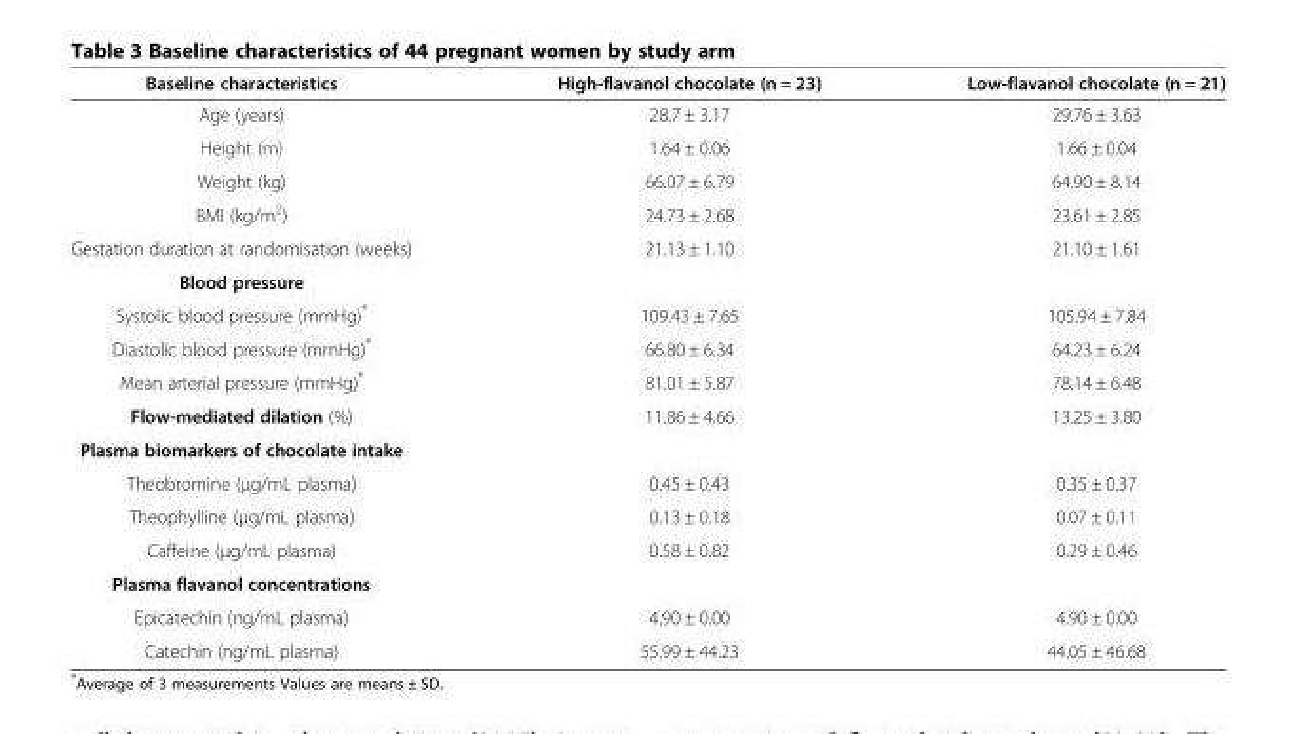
<table><thead><tr><td>Baseline characteristics</td><td>High-flavanol chocolate (n = 23)</td><td>Low-flavanol chocolate (n = 21)</td></tr></thead><tbody><tr><td>Age (years)</td><td>28.7 ± 3.17</td><td>29.76 ± 3.63</td></tr><tr><td>Height (m)</td><td>1.64 ± 0.06</td><td>1.66 ± 0.04</td></tr><tr><td>Weight (kg)</td><td>66.07 ± 6.79</td><td>64.90 ± 8.14</td></tr><tr><td>BMI (kg/m<sup>2</sup>)</td><td>24.73 ± 2.68</td><td>23.61 ± 2.85</td></tr><tr><td>Gestation duration at randomisation (weeks)</td><td>21.13 ± 1.10</td><td>21.10 ± 1.61</td></tr><tr><td colspan="3">Blood pressure</td></tr><tr><td>Systolic blood pressure (mmHg)*</td><td>109.43 ± 7.65</td><td>105.94 ± 7.84</td></tr><tr><td>Diastolic blood pressure (mmHg)*</td><td>66.80 ± 6.34</td><td>64.23 ± 6.24</td></tr><tr><td>Mean arterial pressure (mmHg)*</td><td>81.01 ± 5.87</td><td>78.14 ± 6.48</td></tr><tr><td>Flow-mediated dilation (%)</td><td>11.86 ± 4.66</td><td>13.25 ± 3.80</td></tr><tr><td colspan="3">Plasma biomarkers of chocolate intake</td></tr><tr><td>Theobromine (μg/mL plasma)</td><td>0.45 ± 0.43</td><td>0.35 ± 0.37</td></tr><tr><td>Theophylline (μg/mL plasma)</td><td>0.13 ± 0.18</td><td>0.07 ± 0.11</td></tr><tr><td>Caffeine (μg/mL plasma)</td><td>0.58 ± 0.82</td><td>0.29 ± 0.46</td></tr><tr><td colspan="3">Plasma flavanol concentrations</td></tr><tr><td>Epicatechin (ng/mL plasma)</td><td>4.90 ± 0.00</td><td>4.90 ± 0.00</td></tr><tr><td>Catechin (ng/mL plasma)</td><td>55.99 ± 44.23</td><td>44.05 ± 46.68</td></tr></tbody></table>